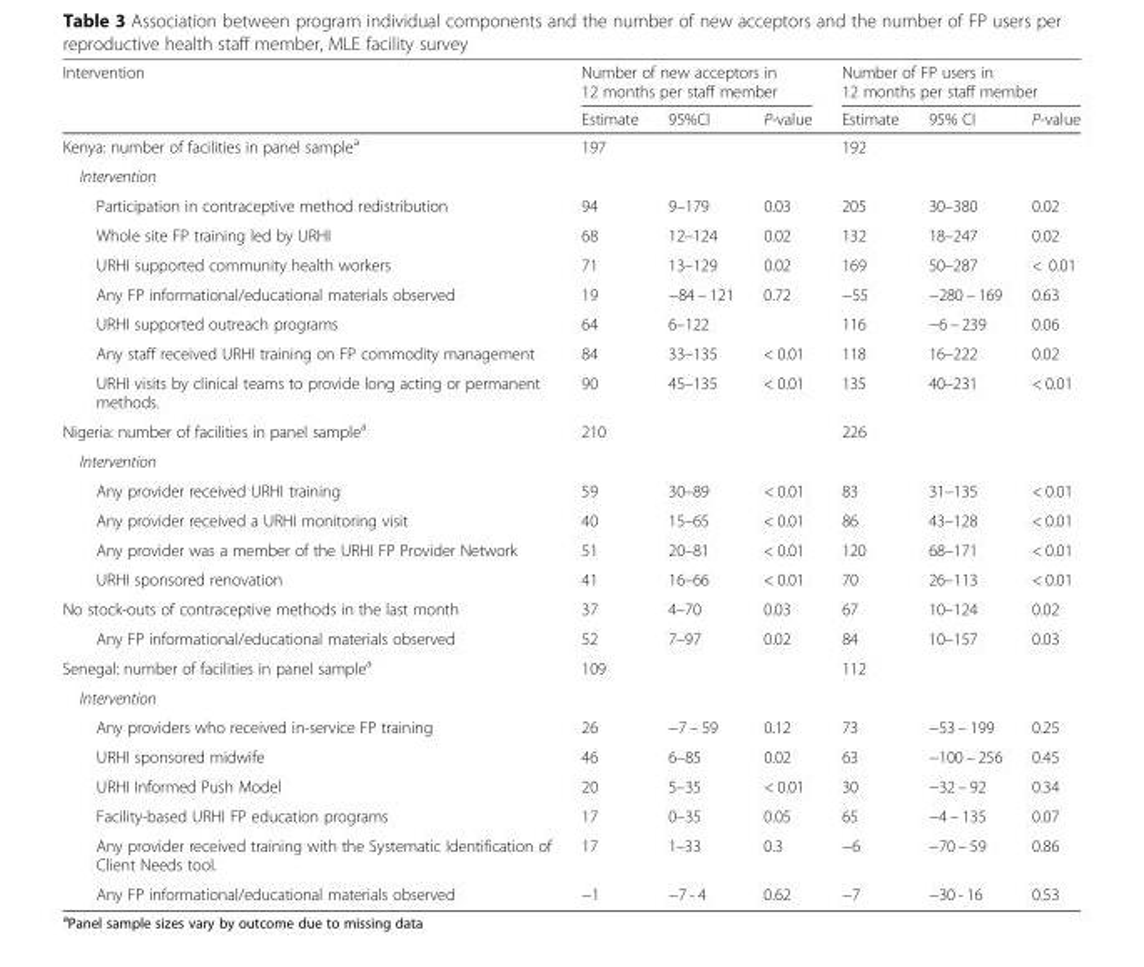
<table><thead><tr><td rowspan="2">Intervention</td><td colspan="3">Number of new acceptors in 12 months per staff member</td><td colspan="3">Number of FP users in 12 months per staff member</td></tr><tr><td>Estimate</td><td>95%CI</td><td>P-value</td><td>Estimate</td><td>95% CI</td><td>P-value</td></tr></thead><tbody><tr><td>Kenya: number of facilities in panel sample<sup>a</sup></td><td>197</td><td></td><td></td><td>192</td><td></td><td></td></tr><tr><td colspan="7">Intervention</td></tr><tr><td>Participation in contraceptive method redistribution</td><td>94</td><td>9–179</td><td>0.03</td><td>205</td><td>30–380</td><td>0.02</td></tr><tr><td>Whole site FP training led by URHI</td><td>68</td><td>12–124</td><td>0.02</td><td>132</td><td>18–247</td><td>0.02</td></tr><tr><td>URHI supported community health workers</td><td>71</td><td>13–129</td><td>0.02</td><td>169</td><td>50–287</td><td>&lt; 0.01</td></tr><tr><td>Any FP informational/educational materials observed</td><td>19</td><td>−84 – 121</td><td>0.72</td><td>−55</td><td>−280 – 169</td><td>0.63</td></tr><tr><td>URHI supported outreach programs</td><td>64</td><td>6–122</td><td></td><td>116</td><td>−6 – 239</td><td>0.06</td></tr><tr><td>Any staff received URHI training on FP commodity management</td><td>84</td><td>33–135</td><td>&lt; 0.01</td><td>118</td><td>16–222</td><td>0.02</td></tr><tr><td>URHI visits by clinical teams to provide long acting or permanent methods.</td><td>90</td><td>45–135</td><td>&lt; 0.01</td><td>135</td><td>40–231</td><td>&lt; 0.01</td></tr><tr><td>Nigeria: number of facilities in panel sample<sup>a</sup></td><td>210</td><td></td><td></td><td>226</td><td></td><td></td></tr><tr><td colspan="7">Intervention</td></tr><tr><td>Any provider received URHI training</td><td>59</td><td>30–89</td><td>&lt; 0.01</td><td>83</td><td>31–135</td><td>&lt; 0.01</td></tr><tr><td>Any provider received a URHI monitoring visit</td><td>40</td><td>15–65</td><td>&lt; 0.01</td><td>86</td><td>43–128</td><td>&lt; 0.01</td></tr><tr><td>Any provider was a member of the URHI FP Provider Network</td><td>51</td><td>20–81</td><td>&lt; 0.01</td><td>120</td><td>68–171</td><td>&lt; 0.01</td></tr><tr><td>URHI sponsored renovation</td><td>41</td><td>16–66</td><td>&lt; 0.01</td><td>70</td><td>26–113</td><td>&lt; 0.01</td></tr><tr><td>No stock-outs of contraceptive methods in the last month</td><td>37</td><td>4–70</td><td>0.03</td><td>67</td><td>10–124</td><td>0.02</td></tr><tr><td>Any FP informational/educational materials observed</td><td>52</td><td>7–97</td><td>0.02</td><td>84</td><td>10–157</td><td>0.03</td></tr><tr><td>Senegal: number of facilities in panel sample<sup>a</sup></td><td>109</td><td></td><td></td><td>112</td><td></td><td></td></tr><tr><td colspan="7">Intervention</td></tr><tr><td>Any providers who received in-service FP training</td><td>26</td><td>−7 – 59</td><td>0.12</td><td>73</td><td>−53 – 199</td><td>0.25</td></tr><tr><td>URHI sponsored midwife</td><td>46</td><td>6–85</td><td>0.02</td><td>63</td><td>−100 – 256</td><td>0.45</td></tr><tr><td>URHI Informed Push Model</td><td>20</td><td>5–35</td><td>&lt; 0.01</td><td>30</td><td>−32 – 92</td><td>0.34</td></tr><tr><td>Facility-based URHI FP education programs</td><td>17</td><td>0–35</td><td>0.05</td><td>65</td><td>−4 – 135</td><td>0.07</td></tr><tr><td>Any provider received training with the Systematic Identification of Client Needs tool.</td><td>17</td><td>1–33</td><td>0.3</td><td>−6</td><td>−70 – 59</td><td>0.86</td></tr><tr><td>Any FP informational/educational materials observed</td><td>−1</td><td>−7 - 4</td><td>0.62</td><td>−7</td><td>−30 - 16</td><td>0.53</td></tr></tbody></table>